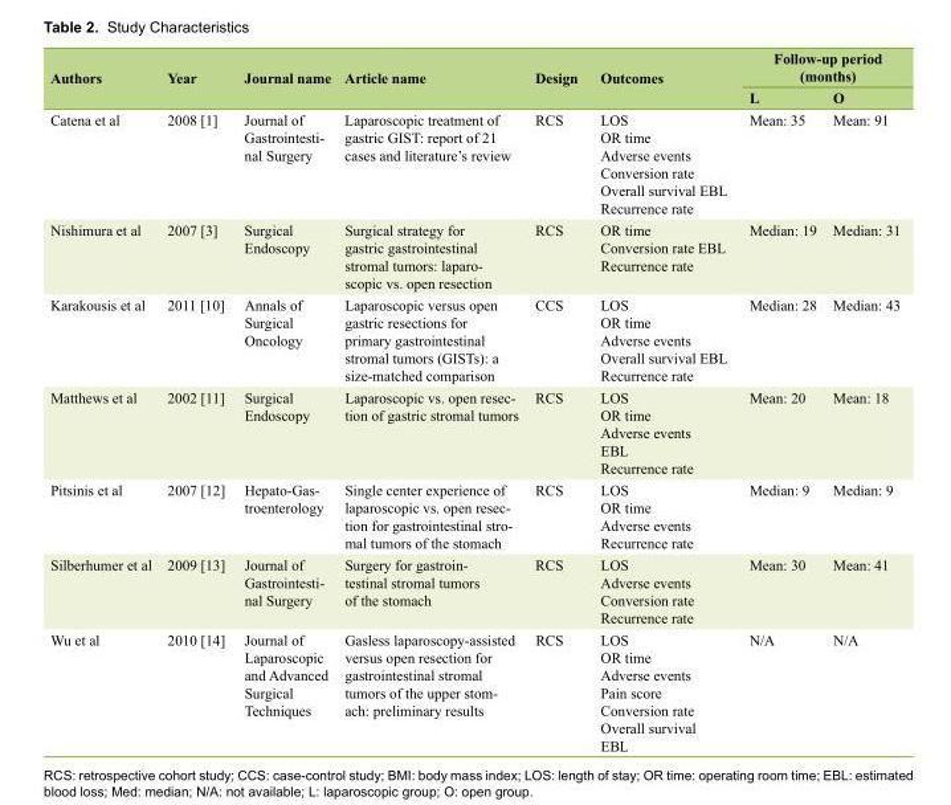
<table><thead><tr><td rowspan="2">Authors</td><td rowspan="2">Year</td><td rowspan="2">Journal name</td><td rowspan="2">Article name</td><td rowspan="2">Design</td><td rowspan="2">Outcomes</td><td colspan="2">Follow-up period (months)</td></tr><tr><td>L</td><td>O</td></tr></thead><tbody><tr><td>Catena et al</td><td>2008 [1]</td><td>Journal of Gastrointesti- nal Surgery</td><td>Laparoscopic treatment of gastric GIST: report of 21 cases and literature’s review</td><td>RCS</td><td>LOS OR time Adverse events Conversion rate Overall survival EBL Recurrence rate</td><td>Mean: 35</td><td>Mean: 91</td></tr><tr><td>Nishimura et al</td><td>2007 [3]</td><td>Surgical Endoscopy</td><td>Surgical strategy for gastric gastrointestinal stromal tumors: laparo- scopic vs. open resection</td><td>RCS</td><td>OR time Conversion rate EBL Recurrence rate</td><td>Median: 19</td><td>Median: 31</td></tr><tr><td>Karakousis et al</td><td>2011 [10]</td><td>Annals of Surgical Oncology</td><td>Laparoscopic versus open gastric resections for primary gastrointestinal stromal tumors (GISTs): a size-matched comparison</td><td>CCS</td><td>LOS OR time Adverse events Overall survival EBL Recurrence rate</td><td>Median: 28</td><td>Median: 43</td></tr><tr><td>Matthews et al</td><td>2002 [11]</td><td>Surgical Endoscopy</td><td>Laparoscopic vs. open resec- tion of gastric stromal tumors</td><td>RCS</td><td>LOS OR time Adverse events EBL Recurrence rate</td><td>Mean: 20</td><td>Mean: 18</td></tr><tr><td>Pitsinis et al</td><td>2007 [12]</td><td>Hepato-Gas- troenterology</td><td>Single center experience of laparoscopic vs. open resec- tion for gastrointestinal stro- mal tumors of the stomach</td><td>RCS</td><td>LOS OR time Adverse events Recurrence rate</td><td>Median: 9</td><td>Median: 9</td></tr><tr><td>Silberhumer et al</td><td>2009 [13]</td><td>Journal of Gastrointesti- nal Surgery</td><td>Surgery for gastroin- testinal stromal tumors of the stomach</td><td>RCS</td><td>LOS Adverse events Conversion rate Recurrence rate</td><td>Mean: 30</td><td>Mean: 41</td></tr><tr><td>Wu et al</td><td>2010 [14]</td><td>Journal of Laparoscopic and Advanced Surgical Techniques</td><td>Gasless laparoscopy-assisted versus open resection for gastrointestinal stromal tumors of the upper stom- ach: preliminary results</td><td>RCS</td><td>LOS OR time Adverse events Pain score Conversion rate Overall survival EBL</td><td>N/A</td><td>N/A</td></tr></tbody></table>